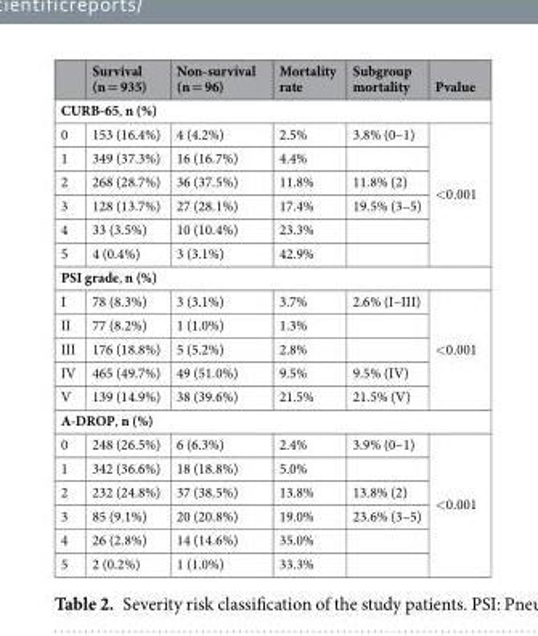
<table><thead><tr><td></td><td>Survival (n = 935)</td><td>Non-survival (n = 96)</td><td>Mortality rate</td><td>Subgroup mortality</td><td>Pvalue</td></tr></thead><tbody><tr><td colspan="6">CURB-65, n (%)</td></tr><tr><td>0</td><td>153 (16.4%)</td><td>4 (4.2%)</td><td>2.5%</td><td>3.8% (0–1)</td><td rowspan="6">&lt;0.001</td></tr><tr><td>1</td><td>349 (37.3%)</td><td>16 (16.7%)</td><td>4.4%</td><td></td></tr><tr><td>2</td><td>268 (28.7%)</td><td>36 (37.5%)</td><td>11.8%</td><td>11.8% (2)</td></tr><tr><td>3</td><td>128 (13.7%)</td><td>27 (28.1%)</td><td>17.4%</td><td>19.5% (3–5)</td></tr><tr><td>4</td><td>33 (3.5%)</td><td>10 (10.4%)</td><td>23.3%</td><td></td></tr><tr><td>5</td><td>4 (0.4%)</td><td>3 (3.1%)</td><td>42.9%</td><td></td></tr><tr><td colspan="6">PSI grade, n (%)</td></tr><tr><td>I</td><td>78 (8.3%)</td><td>3 (3.1%)</td><td>3.7%</td><td>2.6% (I–III)</td><td rowspan="5">&lt;0.001</td></tr><tr><td>II</td><td>77 (8.2%)</td><td>1 (1.0%)</td><td>1.3%</td><td></td></tr><tr><td>III</td><td>176 (18.8%)</td><td>5 (5.2%)</td><td>2.8%</td><td></td></tr><tr><td>IV</td><td>465 (49.7%)</td><td>49 (51.0%)</td><td>9.5%</td><td>9.5% (IV)</td></tr><tr><td>V</td><td>139 (14.9%)</td><td>38 (39.6%)</td><td>21.5%</td><td>21.5% (V)</td></tr><tr><td colspan="6">A-DROP, n (%)</td></tr><tr><td>0</td><td>248 (26.5%)</td><td>6 (6.3%)</td><td>2.4%</td><td>3.9% (0–1)</td><td rowspan="6">&lt;0.001</td></tr><tr><td>1</td><td>342 (36.6%)</td><td>18 (18.8%)</td><td>5.0%</td><td></td></tr><tr><td>2</td><td>232 (24.8%)</td><td>37 (38.5%)</td><td>13.8%</td><td>13.8% (2)</td></tr><tr><td>3</td><td>85 (9.1%)</td><td>20 (20.8%)</td><td>19.0%</td><td>23.6% (3–5)</td></tr><tr><td>4</td><td>26 (2.8%)</td><td>14 (14.6%)</td><td>35.0%</td><td></td></tr><tr><td>5</td><td>2 (0.2%)</td><td>1 (1.0%)</td><td>33.3%</td><td></td></tr></tbody></table>